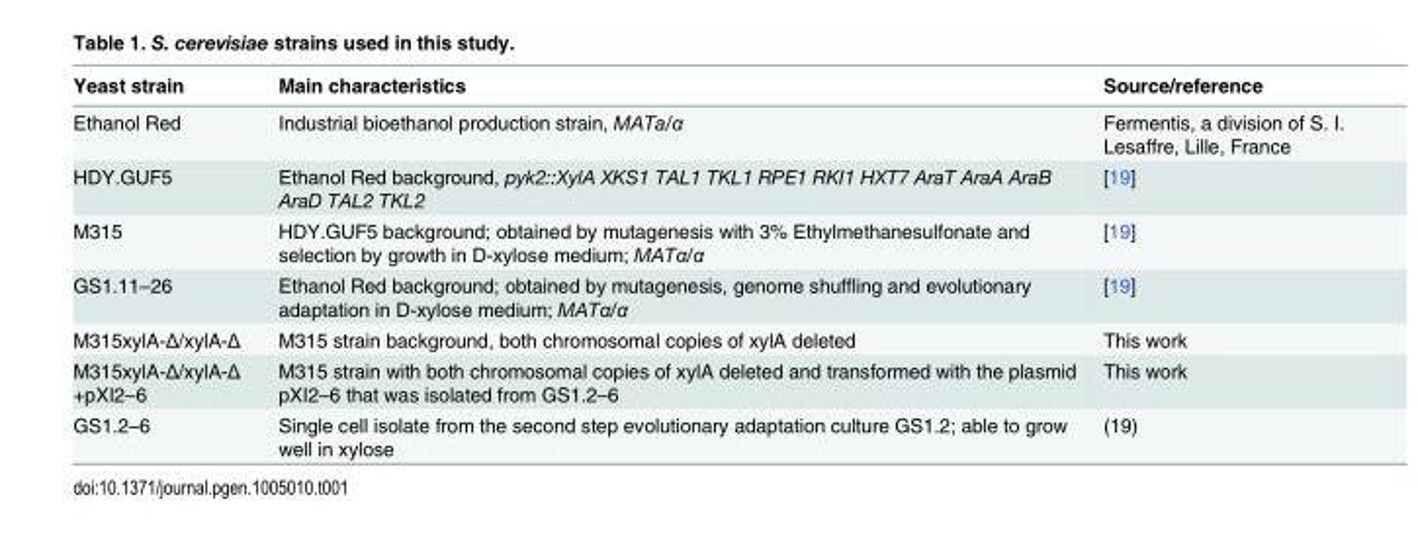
<table><thead><tr><td>Yeast strain</td><td>Main characteristics</td><td>Source/reference</td></tr></thead><tbody><tr><td>Ethanol Red</td><td>Industrial bioethanol production strain, MATa/α</td><td>Fermentis, a division of S. I. Lesaffre, Lille, France</td></tr><tr><td>HDY.GUF5</td><td>Ethanol Red background, pyk2::XylA XKS1 TAL1 TKL1 RPE1 RKI1 HXT7 AraT AraA AraB AraD TAL2 TKL2</td><td>[19]</td></tr><tr><td>M315</td><td>HDY.GUF5 background; obtained by mutagenesis with 3% Ethylmethanesulfonate and selection by growth in D-xylose medium; MATα/α</td><td>[19]</td></tr><tr><td>GS1.11–26</td><td>Ethanol Red background; obtained by mutagenesis, genome shuffling and evolutionary adaptation in D-xylose medium; MATα/α</td><td>[19]</td></tr><tr><td>M315xylA-Δ/xylA-Δ</td><td>M315 strain background, both chromosomal copies of xylA deleted</td><td>This work</td></tr><tr><td>M315xylA-Δ/xylA-Δ +pXI2–6</td><td>M315 strain with both chromosomal copies of xylA deleted and transformed with the plasmid pXI2–6 that was isolated from GS1.2–6</td><td>This work</td></tr><tr><td>GS1.2–6</td><td>Single cell isolate from the second step evolutionary adaptation culture GS1.2; able to grow well in xylose</td><td>(19)</td></tr></tbody></table>